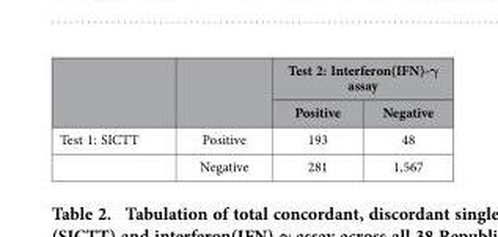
<table><thead><tr><td rowspan="2"></td><td rowspan="2"></td><td colspan="2">Test 2: Interferon(IFN)-γ assay</td></tr><tr><td>Positive</td><td>Negative</td></tr></thead><tbody><tr><td rowspan="2">Test 1: SICTT</td><td>Positive</td><td>193</td><td>48</td></tr><tr><td>Negative</td><td>281</td><td>1,567</td></tr></tbody></table>